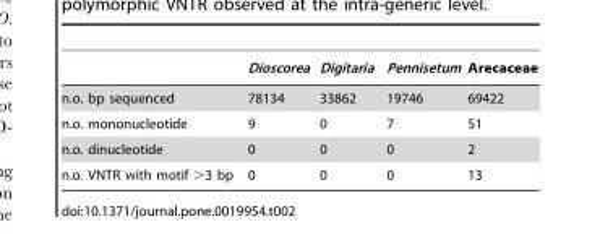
<table><thead><tr><td></td><td>Dioscorea</td><td>Digitaria</td><td>Pennisetum</td><td>Arecaceae</td></tr></thead><tbody><tr><td>n.o. bp sequenced</td><td>78134</td><td>33862</td><td>19746</td><td>69422</td></tr><tr><td>n.o. mononucleotide</td><td>9</td><td>0</td><td>7</td><td>51</td></tr><tr><td>n.o. dinucleotide</td><td>0</td><td>0</td><td>0</td><td>2</td></tr><tr><td>n.o. VNTR with motif &gt;3 bp</td><td>0</td><td>0</td><td>0</td><td>13</td></tr></tbody></table>